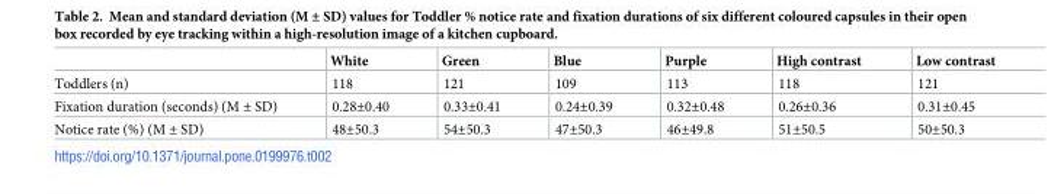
<table><thead><tr><td></td><td>White</td><td>Green</td><td>Blue</td><td>Purple</td><td>High contrast</td><td>Low contrast</td></tr></thead><tbody><tr><td>Toddlers (n)</td><td>118</td><td>121</td><td>109</td><td>113</td><td>118</td><td>121</td></tr><tr><td>Fixation duration (seconds) (M ± SD)</td><td>0.28±0.40</td><td>0.33±0.41</td><td>0.24±0.39</td><td>0.32±0.48</td><td>0.26±0.36</td><td>0.31±0.45</td></tr><tr><td>Notice rate (%) (M ± SD)</td><td>48±50.3</td><td>54±50.3</td><td>47±50.3</td><td>46±49.8</td><td>51±50.5</td><td>50±50.3</td></tr></tbody></table>